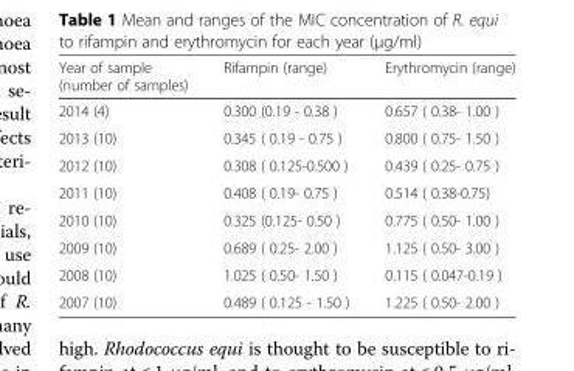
<table><thead><tr><td>Year of sample (number of samples)</td><td>Rifampin (range)</td><td>Erythromycin (range)</td></tr></thead><tbody><tr><td>2014 (4)</td><td>0.300 (0.19 - 0.38 )</td><td>0.657 ( 0.38- 1.00 )</td></tr><tr><td>2013 (10)</td><td>0.345 ( 0.19 - 0.75 )</td><td>0.800 ( 0.75- 1.50 )</td></tr><tr><td>2012 (10)</td><td>0.308 ( 0.125-0.500 )</td><td>0.439 ( 0.25- 0.75 )</td></tr><tr><td>2011 (10)</td><td>0.408 ( 0.19- 0.75 )</td><td>0.514 ( 0.38-0.75)</td></tr><tr><td>2010 (10)</td><td>0.325 (0.125- 0.50 )</td><td>0.775 ( 0.50- 1.00 )</td></tr><tr><td>2009 (10)</td><td>0.689 ( 0.25- 2.00 )</td><td>1.125 ( 0.50- 3.00 )</td></tr><tr><td>2008 (10)</td><td>1.025 ( 0.50- 1.50 )</td><td>0.115 ( 0.047-0.19 )</td></tr><tr><td>2007 (10)</td><td>0.489 ( 0.125 - 1.50 )</td><td>1.225 ( 0.50- 2.00 )</td></tr></tbody></table>